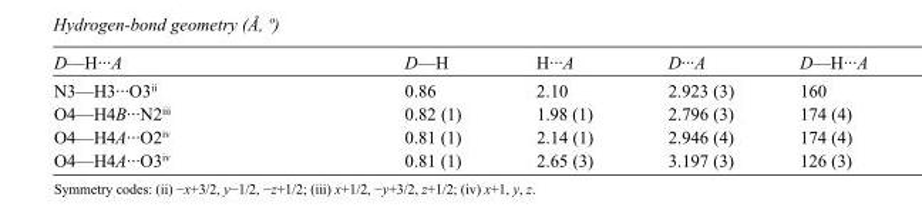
<table><tbody><tr><td>D—H···A</td><td>D—H</td><td>H···A</td><td>D···A</td><td>D—H···A</td></tr><tr><td>N3—H3···O3<sup>ii</sup></td><td>0.86</td><td>2.10</td><td>2.923 (3)</td><td>160</td></tr><tr><td>O4—H4B···N2<sup>iii</sup></td><td>0.82 (1)</td><td>1.98 (1)</td><td>2.796 (3)</td><td>174 (4)</td></tr><tr><td>O4—H4A···O2<sup>iv</sup></td><td>0.81 (1)</td><td>2.14 (1)</td><td>2.946 (4)</td><td>174 (4)</td></tr><tr><td>O4—H4A···O3<sup>iv</sup></td><td>0.81 (1)</td><td>2.65 (3)</td><td>3.197 (3)</td><td>126 (3)</td></tr></tbody></table>